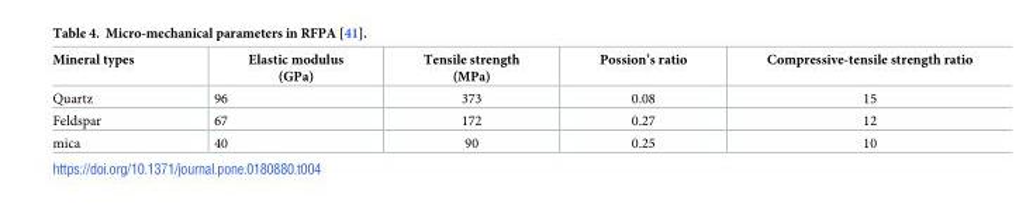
<table><thead><tr><td>Mineral types</td><td>Elastic modulus (GPa)</td><td>Tensile strength (MPa)</td><td>Possion’s ratio</td><td>Compressive-tensile strength ratio</td></tr></thead><tbody><tr><td>Quartz</td><td>96</td><td>373</td><td>0.08</td><td>15</td></tr><tr><td>Feldspar</td><td>67</td><td>172</td><td>0.27</td><td>12</td></tr><tr><td>mica</td><td>40</td><td>90</td><td>0.25</td><td>10</td></tr></tbody></table>